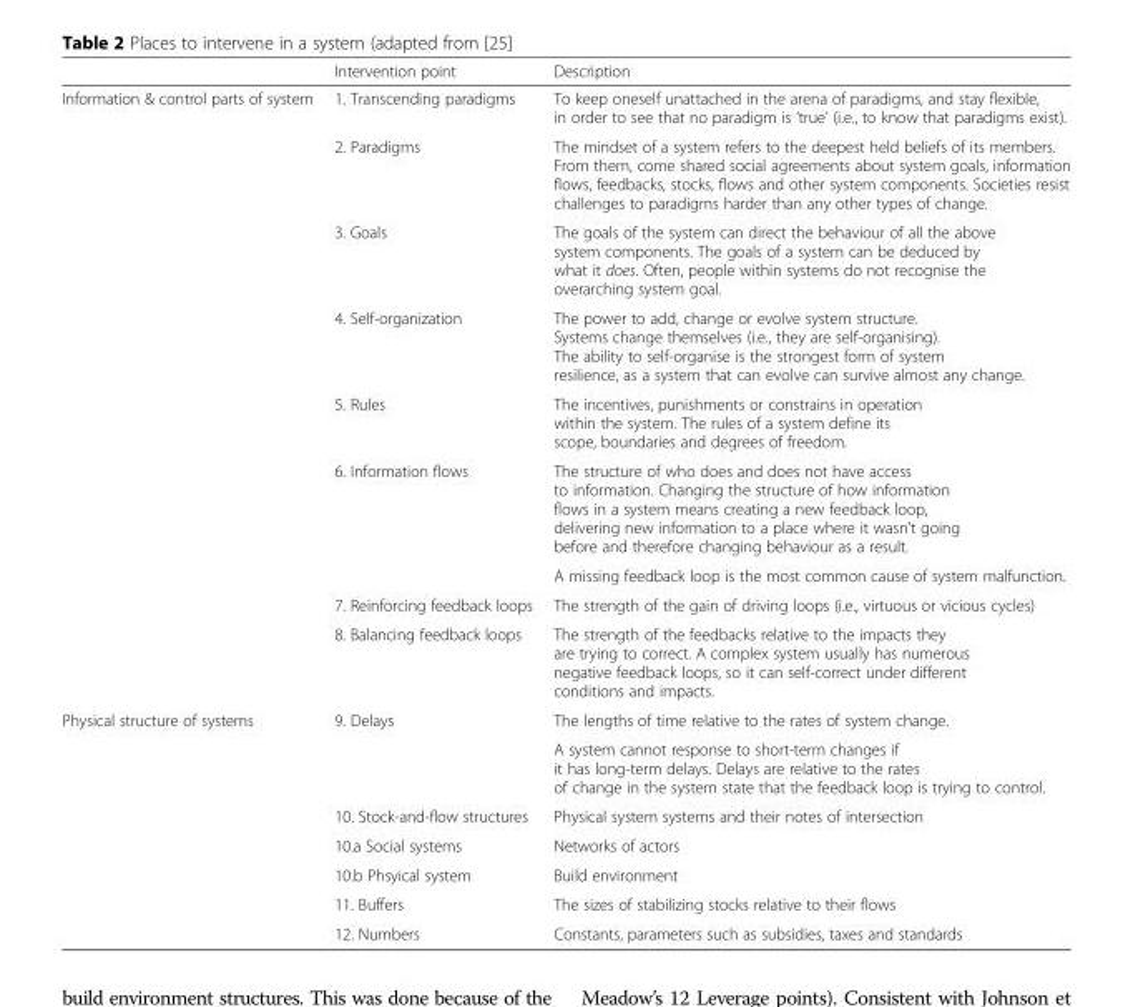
<table><thead><tr><td></td><td>Intervention point</td><td>Description</td></tr></thead><tbody><tr><td rowspan="9">Information &amp; control parts of system</td><td>1. Transcending paradigms</td><td>To keep oneself unattached in the arena of paradigms, and stay flexible, in order to see that no paradigm is ‘true’ (i.e., to know that paradigms exist).</td></tr><tr><td>2. Paradigms</td><td>The mindset of a system refers to the deepest held beliefs of its members. From them, come shared social agreements about system goals, information flows, feedbacks, stocks, flows and other system components. Societies resist challenges to paradigms harder than any other types of change.</td></tr><tr><td>3. Goals</td><td>The goals of the system can direct the behaviour of all the above system components. The goals of a system can be deduced by what it does. Often, people within systems do not recognise the overarching system goal.</td></tr><tr><td>4. Self-organization</td><td>The power to add, change or evolve system structure. Systems change themselves (i.e., they are self-organising). The ability to self-organise is the strongest form of system resilience, as a system that can evolve can survive almost any change.</td></tr><tr><td>5. Rules</td><td>The incentives, punishments or constrains in operation within the system. The rules of a system define its scope, boundaries and degrees of freedom.</td></tr><tr><td rowspan="2">6. Information flows</td><td>The structure of who does and does not have access to information. Changing the structure of how information flows in a system means creating a new feedback loop, delivering new information to a place where it wasn’t going before and therefore changing behaviour as a result.</td></tr><tr><td>A missing feedback loop is the most common cause of system malfunction.</td></tr><tr><td>7. Reinforcing feedback loops</td><td>The strength of the gain of driving loops (i.e., virtuous or vicious cycles)</td></tr><tr><td>8. Balancing feedback loops</td><td>The strength of the feedbacks relative to the impacts they are trying to correct. A complex system usually has numerous negative feedback loops, so it can self-correct under different conditions and impacts.</td></tr><tr><td rowspan="7">Physical structure of systems</td><td rowspan="2">9. Delays</td><td>The lengths of time relative to the rates of system change.</td></tr><tr><td>A system cannot response to short-term changes if it has long-term delays. Delays are relative to the rates of change in the system state that the feedback loop is trying to control.</td></tr><tr><td>10. Stock-and-flow structures</td><td>Physical system systems and their notes of intersection</td></tr><tr><td>10.a Social systems</td><td>Networks of actors</td></tr><tr><td>10.b Phsyical system</td><td>Build environment</td></tr><tr><td>11. Buffers</td><td>The sizes of stabilizing stocks relative to their flows</td></tr><tr><td>12. Numbers</td><td>Constants, parameters such as subsidies, taxes and standards</td></tr></tbody></table>